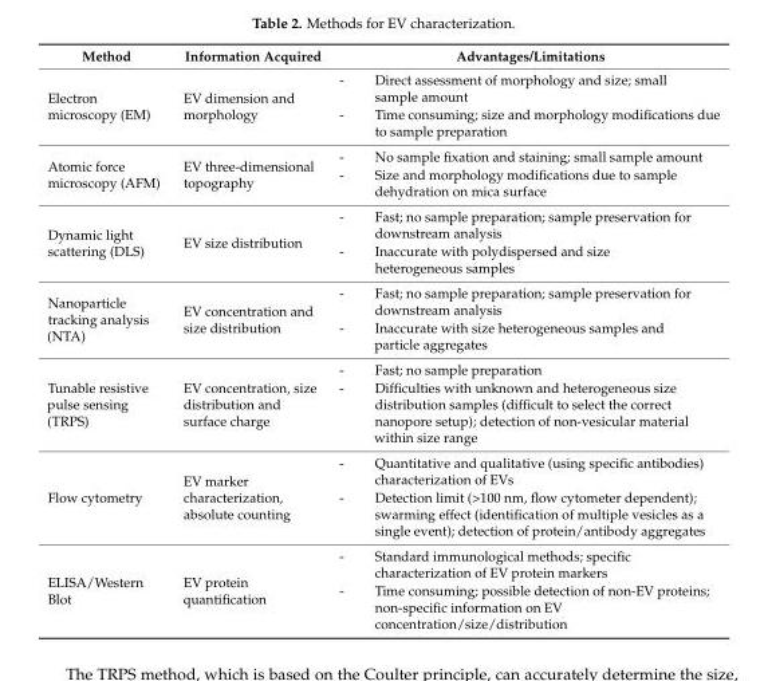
<table><thead><tr><td>Method</td><td>Information Acquired</td><td>Advantages/Limitations</td></tr></thead><tbody><tr><td>Electron microscopy (EM)</td><td>EV dimension and morphology</td><td>- Direct assessment of morphology and size; small sample amount - Time consuming; size and morphology modifications due to sample preparation</td></tr><tr><td>Atomic force microscopy (AFM)</td><td>EV three-dimensional topography</td><td>- No sample fixation and staining; small sample amount - Size and morphology modifications due to sample dehydration on mica surface</td></tr><tr><td>Dynamic light scattering (DLS)</td><td>EV size distribution</td><td>- Fast; no sample preparation; sample preservation for downstream analysis - Inaccurate with polydispersed and size heterogeneous samples</td></tr><tr><td>Nanoparticle tracking analysis (NTA)</td><td>EV concentration and size distribution</td><td>- Fast; no sample preparation; sample preservation for downstream analysis - Inaccurate with size heterogeneous samples and particle aggregates</td></tr><tr><td>Tunable resistive pulse sensing (TRPS)</td><td>EV concentration, size distribution and surface charge</td><td>- Fast; no sample preparation - Difficulties with unknown and heterogeneous size distribution samples (difficult to select the correct nanopore setup); detection of non-vesicular material within size range</td></tr><tr><td>Flow cytometry</td><td>EV marker characterization, absolute counting</td><td>- Quantitative and qualitative (using specific antibodies) characterization of EVs - Detection limit (&gt;100 nm, flow cytometer dependent); swarming effect (identification of multiple vesicles as a single event); detection of protein/antibody aggregates</td></tr><tr><td>ELISA/Western Blot</td><td>EV protein quantification</td><td>- Standard immunological methods; specific characterization of EV protein markers - Time consuming; possible detection of non-EV proteins; non-specific information on EV concentration/size/distribution</td></tr></tbody></table>